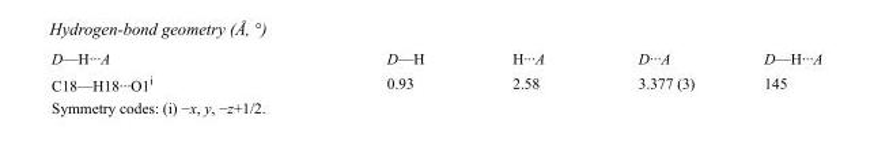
<table><tbody><tr><td>D—H···A</td><td>D—H</td><td>H···A</td><td>D···A</td><td>D—H···A</td></tr><tr><td>C18—H18···O1<sup>i</sup></td><td>0.93</td><td>2.58</td><td>3.377 (3)</td><td>145</td></tr></tbody></table>